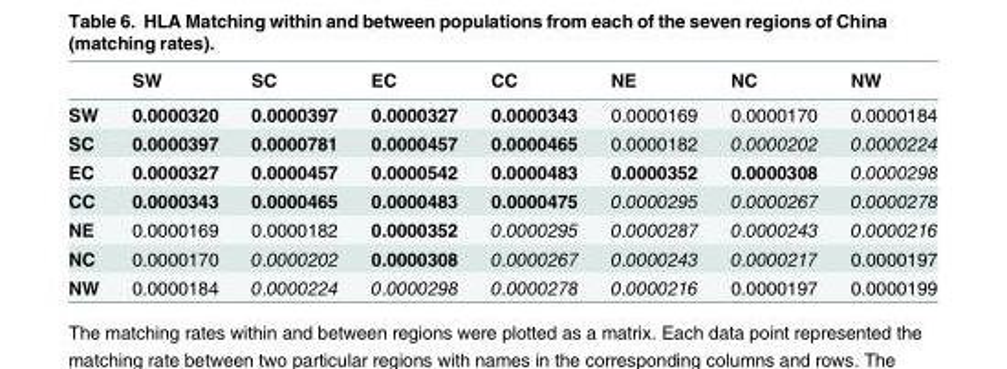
<table><thead><tr><td></td><td>SW</td><td>SC</td><td>EC</td><td>CC</td><td>NE</td><td>NC</td><td>NW</td></tr></thead><tbody><tr><td>SW</td><td>0.0000320</td><td>0.0000397</td><td>0.0000327</td><td>0.0000343</td><td>0.0000169</td><td>0.0000170</td><td>0.0000184</td></tr><tr><td>SC</td><td>0.0000397</td><td>0.0000781</td><td>0.0000457</td><td>0.0000465</td><td>0.0000182</td><td>0.0000202</td><td>0.0000224</td></tr><tr><td>EC</td><td>0.0000327</td><td>0.0000457</td><td>0.0000542</td><td>0.0000483</td><td>0.0000352</td><td>0.0000308</td><td>0.0000298</td></tr><tr><td>CC</td><td>0.0000343</td><td>0.0000465</td><td>0.0000483</td><td>0.0000475</td><td>0.0000295</td><td>0.0000267</td><td>0.0000278</td></tr><tr><td>NE</td><td>0.0000169</td><td>0.0000182</td><td>0.0000352</td><td>0.0000295</td><td>0.0000287</td><td>0.0000243</td><td>0.0000216</td></tr><tr><td>NC</td><td>0.0000170</td><td>0.0000202</td><td>0.0000308</td><td>0.0000267</td><td>0.0000243</td><td>0.0000217</td><td>0.0000197</td></tr><tr><td>NW</td><td>0.0000184</td><td>0.0000224</td><td>0.0000298</td><td>0.0000278</td><td>0.0000216</td><td>0.0000197</td><td>0.0000199</td></tr></tbody></table>